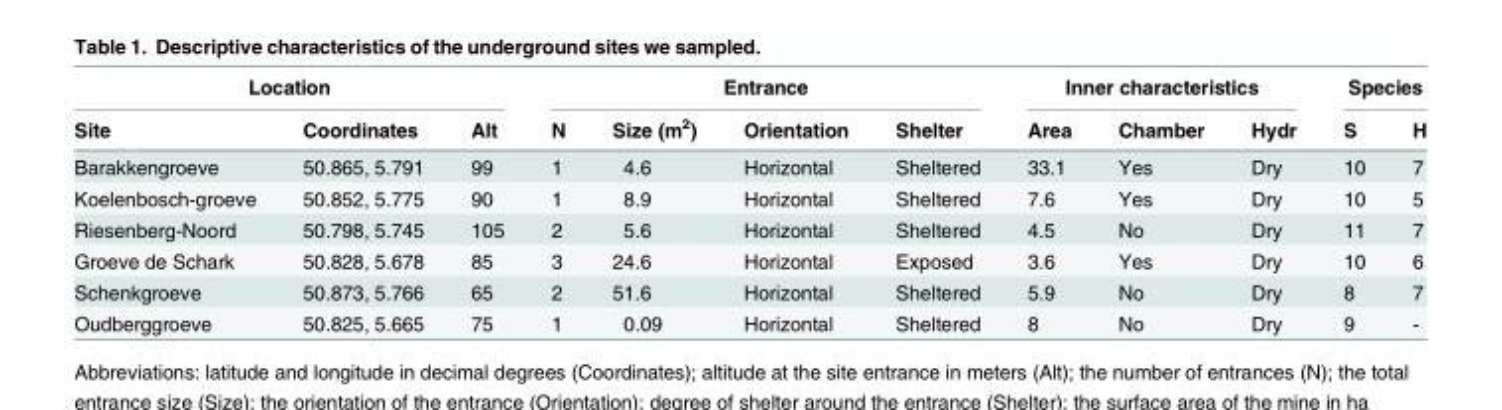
<table><thead><tr><td colspan="3">Location</td><td colspan="4">Entrance</td><td colspan="3">Inner characteristics</td><td colspan="2">Species</td></tr><tr><td>Site</td><td>Coordinates</td><td>Alt</td><td>N</td><td>Size (m<sup>2</sup>)</td><td>Orientation</td><td>Shelter</td><td>Area</td><td>Chamber</td><td>Hydr</td><td>S</td><td>H</td></tr></thead><tbody><tr><td>Barakkengroeve</td><td>50.865, 5.791</td><td>99</td><td>1</td><td>4.6</td><td>Horizontal</td><td>Sheltered</td><td>33.1</td><td>Yes</td><td>Dry</td><td>10</td><td>7</td></tr><tr><td>Koelenbosch-groeve</td><td>50.852, 5.775</td><td>90</td><td>1</td><td>8.9</td><td>Horizontal</td><td>Sheltered</td><td>7.6</td><td>Yes</td><td>Dry</td><td>10</td><td>5</td></tr><tr><td>Riesenberg-Noord</td><td>50.798, 5.745</td><td>105</td><td>2</td><td>5.6</td><td>Horizontal</td><td>Sheltered</td><td>4.5</td><td>No</td><td>Dry</td><td>11</td><td>7</td></tr><tr><td>Groeve de Schark</td><td>50.828, 5.678</td><td>85</td><td>3</td><td>24.6</td><td>Horizontal</td><td>Exposed</td><td>3.6</td><td>Yes</td><td>Dry</td><td>10</td><td>6</td></tr><tr><td>Schenkgroeve</td><td>50.873, 5.766</td><td>65</td><td>2</td><td>51.6</td><td>Horizontal</td><td>Sheltered</td><td>5.9</td><td>No</td><td>Dry</td><td>8</td><td>7</td></tr><tr><td>Oudberggroeve</td><td>50.825, 5.665</td><td>75</td><td>1</td><td>0.09</td><td>Horizontal</td><td>Sheltered</td><td>8</td><td>No</td><td>Dry</td><td>9</td><td>-</td></tr></tbody></table>